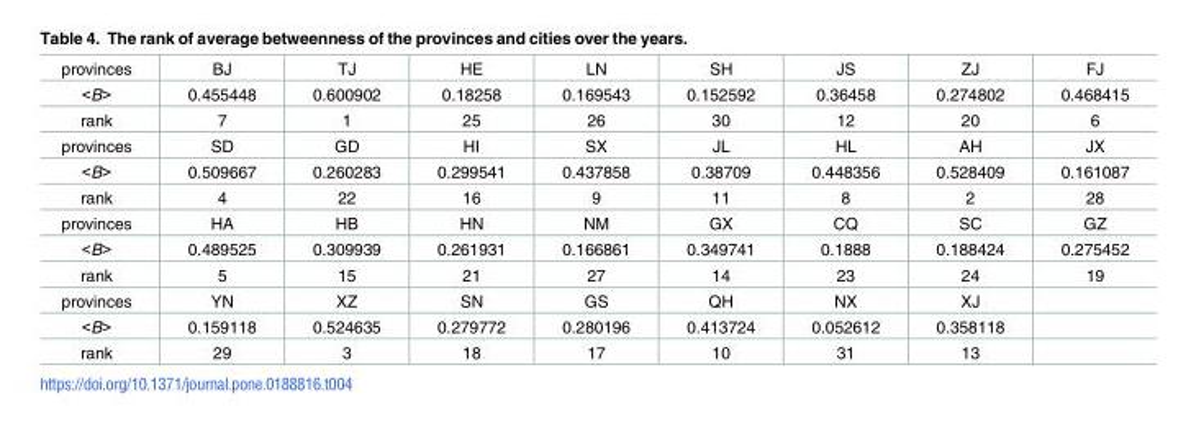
<table><tbody><tr><td>provinces</td><td>BJ</td><td>TJ</td><td>HE</td><td>LN</td><td>SH</td><td>JS</td><td>ZJ</td><td>FJ</td></tr><tr><td>&lt;B&gt;</td><td>0.455448</td><td>0.600902</td><td>0.18258</td><td>0.169543</td><td>0.152592</td><td>0.36458</td><td>0.274802</td><td>0.468415</td></tr><tr><td>rank</td><td>7</td><td>1</td><td>25</td><td>26</td><td>30</td><td>12</td><td>20</td><td>6</td></tr><tr><td>provinces</td><td>SD</td><td>GD</td><td>HI</td><td>SX</td><td>JL</td><td>HL</td><td>AH</td><td>JX</td></tr><tr><td>&lt;B&gt;</td><td>0.509667</td><td>0.260283</td><td>0.299541</td><td>0.437858</td><td>0.38709</td><td>0.448356</td><td>0.528409</td><td>0.161087</td></tr><tr><td>rank</td><td>4</td><td>22</td><td>16</td><td>9</td><td>11</td><td>8</td><td>2</td><td>28</td></tr><tr><td>provinces</td><td>HA</td><td>HB</td><td>HN</td><td>NM</td><td>GX</td><td>CQ</td><td>SC</td><td>GZ</td></tr><tr><td>&lt;B&gt;</td><td>0.489525</td><td>0.309939</td><td>0.261931</td><td>0.166861</td><td>0.349741</td><td>0.1888</td><td>0.188424</td><td>0.275452</td></tr><tr><td>rank</td><td>5</td><td>15</td><td>21</td><td>27</td><td>14</td><td>23</td><td>24</td><td>19</td></tr><tr><td>provinces</td><td>YN</td><td>XZ</td><td>SN</td><td>GS</td><td>QH</td><td>NX</td><td>XJ</td><td></td></tr><tr><td>&lt;B&gt;</td><td>0.159118</td><td>0.524635</td><td>0.279772</td><td>0.280196</td><td>0.413724</td><td>0.052612</td><td>0.358118</td><td></td></tr><tr><td>rank</td><td>29</td><td>3</td><td>18</td><td>17</td><td>10</td><td>31</td><td>13</td><td></td></tr></tbody></table>